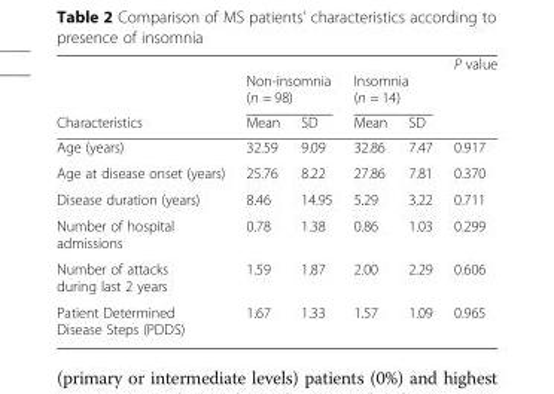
<table><thead><tr><td rowspan="2">Characteristics</td><td colspan="2">Non-insomnia (n = 98)</td><td colspan="2">Insomnia (n = 14)</td><td rowspan="2">P value</td></tr><tr><td>Mean</td><td>SD</td><td>Mean</td><td>SD</td></tr></thead><tbody><tr><td>Age (years)</td><td>32.59</td><td>9.09</td><td>32.86</td><td>7.47</td><td>0.917</td></tr><tr><td>Age at disease onset (years)</td><td>25.76</td><td>8.22</td><td>27.86</td><td>7.81</td><td>0.370</td></tr><tr><td>Disease duration (years)</td><td>8.46</td><td>14.95</td><td>5.29</td><td>3.22</td><td>0.711</td></tr><tr><td>Number of hospital admissions</td><td>0.78</td><td>1.38</td><td>0.86</td><td>1.03</td><td>0.299</td></tr><tr><td>Number of attacks during last 2 years</td><td>1.59</td><td>1.87</td><td>2.00</td><td>2.29</td><td>0.606</td></tr><tr><td>Patient Determined Disease Steps (PDDS)</td><td>1.67</td><td>1.33</td><td>1.57</td><td>1.09</td><td>0.965</td></tr></tbody></table>